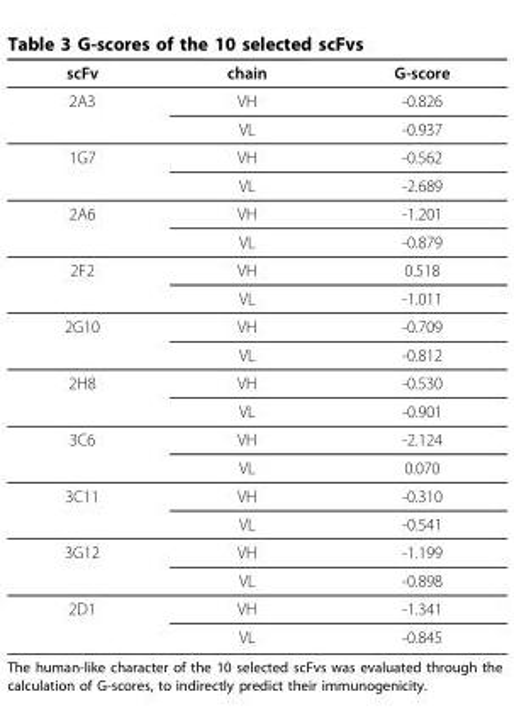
<table><thead><tr><td>scFv</td><td>chain</td><td>G-score</td></tr></thead><tbody><tr><td rowspan="2">2A3</td><td>VH</td><td>-0.826</td></tr><tr><td>VL</td><td>-0.937</td></tr><tr><td rowspan="2">1G7</td><td>VH</td><td>-0.562</td></tr><tr><td>VL</td><td>-2.689</td></tr><tr><td rowspan="2">2A6</td><td>VH</td><td>-1.201</td></tr><tr><td>VL</td><td>-0.879</td></tr><tr><td rowspan="2">2F2</td><td>VH</td><td>0.518</td></tr><tr><td>VL</td><td>-1.011</td></tr><tr><td rowspan="2">2G10</td><td>VH</td><td>-0.709</td></tr><tr><td>VL</td><td>-0.812</td></tr><tr><td rowspan="2">2H8</td><td>VH</td><td>-0.530</td></tr><tr><td>VL</td><td>-0.901</td></tr><tr><td rowspan="2">3C6</td><td>VH</td><td>-2.124</td></tr><tr><td>VL</td><td>0.070</td></tr><tr><td rowspan="2">3C11</td><td>VH</td><td>-0.310</td></tr><tr><td>VL</td><td>-0.541</td></tr><tr><td rowspan="2">3G12</td><td>VH</td><td>-1.199</td></tr><tr><td>VL</td><td>-0.898</td></tr><tr><td rowspan="2">2D1</td><td>VH</td><td>-1.341</td></tr><tr><td>VL</td><td>-0.845</td></tr></tbody></table>